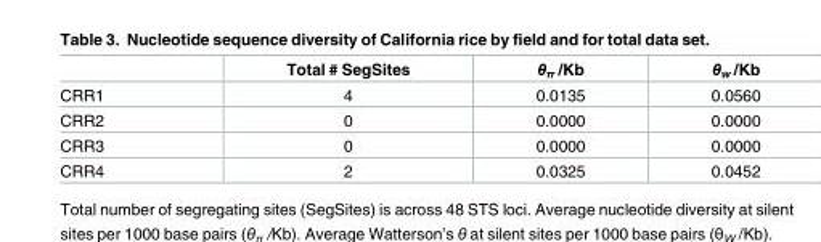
<table><thead><tr><td></td><td>Total # SegSites</td><td>θ<sub>π</sub> /Kb</td><td>θ<sub>w</sub> /Kb</td></tr></thead><tbody><tr><td>CRR1</td><td>4</td><td>0.0135</td><td>0.0560</td></tr><tr><td>CRR2</td><td>0</td><td>0.0000</td><td>0.0000</td></tr><tr><td>CRR3</td><td>0</td><td>0.0000</td><td>0.0000</td></tr><tr><td>CRR4</td><td>2</td><td>0.0325</td><td>0.0452</td></tr></tbody></table>